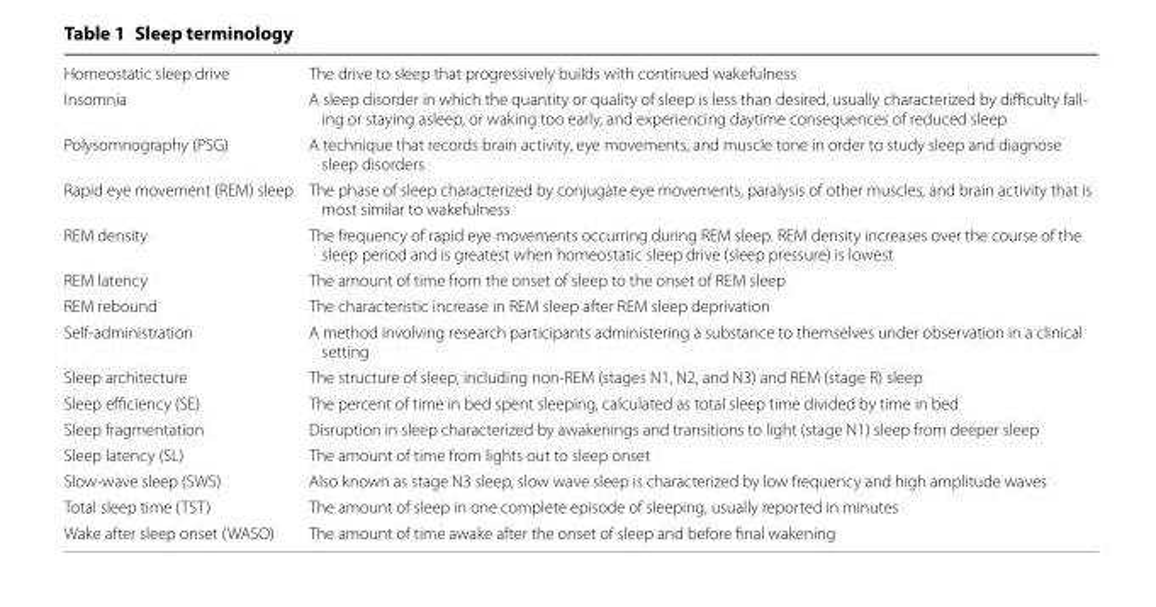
<table><tbody><tr><td>Homeostatic sleep drive</td><td>The drive to sleep that progressively builds with continued wakefulness</td></tr><tr><td>Insomnia</td><td>A sleep disorder in which the quantity or quality of sleep is less than desired, usually characterized by difficulty fall- ing or staying asleep, or waking too early, and experiencing daytime consequences of reduced sleep</td></tr><tr><td>Polysomnography (PSG)</td><td>A technique that records brain activity, eye movements, and muscle tone in order to study sleep and diagnose sleep disorders</td></tr><tr><td>Rapid eye movement (REM) sleep</td><td>The phase of sleep characterized by conjugate eye movements, paralysis of other muscles, and brain activity that is most similar to wakefulness</td></tr><tr><td>REM density</td><td>The frequency of rapid eye movements occurring during REM sleep. REM density increases over the course of the sleep period and is greatest when homeostatic sleep drive (sleep pressure) is lowest</td></tr><tr><td>REM latency</td><td>The amount of time from the onset of sleep to the onset of REM sleep</td></tr><tr><td>REM rebound</td><td>The characteristic increase in REM sleep after REM sleep deprivation</td></tr><tr><td>Self-administration</td><td>A method involving research participants administering a substance to themselves under observation in a clinical setting</td></tr><tr><td>Sleep architecture</td><td>The structure of sleep, including non-REM (stages N1, N2, and N3) and REM (stage R) sleep</td></tr><tr><td>Sleep efficiency (SE)</td><td>The percent of time in bed spent sleeping, calculated as total sleep time divided by time in bed</td></tr><tr><td>Sleep fragmentation</td><td>Disruption in sleep characterized by awakenings and transitions to light (stage N1) sleep from deeper sleep</td></tr><tr><td>Sleep latency (SL)</td><td>The amount of time from lights out to sleep onset</td></tr><tr><td>Slow-wave sleep (SWS)</td><td>Also known as stage N3 sleep, slow wave sleep is characterized by low frequency and high amplitude waves</td></tr><tr><td>Total sleep time (TST)</td><td>The amount of sleep in one complete episode of sleeping, usually reported in minutes</td></tr><tr><td>Wake after sleep onset (WASO)</td><td>The amount of time awake after the onset of sleep and before final wakening</td></tr></tbody></table>